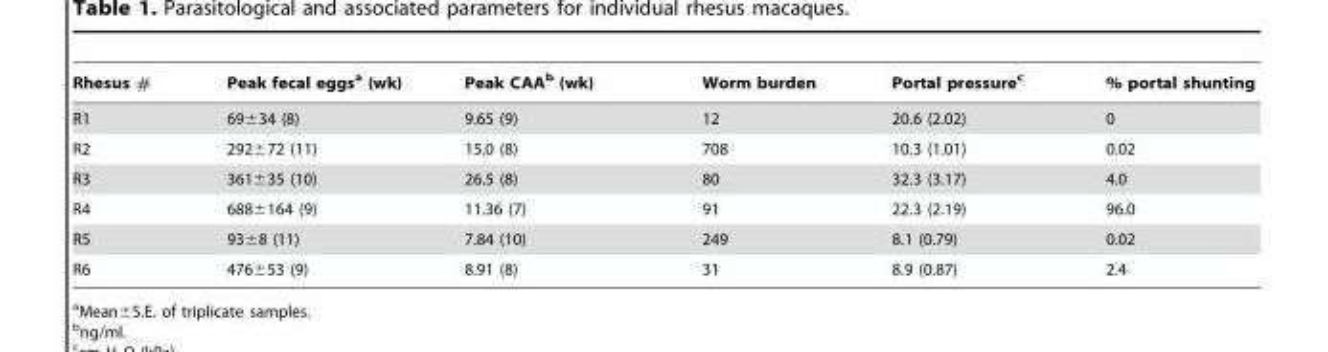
<table><thead><tr><td>Rhesus #</td><td>Peak fecal eggs<sup>a</sup> (wk)</td><td>Peak CAA<sup>b</sup> (wk)</td><td>Worm burden</td><td>Portal pressure<sup>c</sup></td><td>% portal shunting</td></tr></thead><tbody><tr><td>R1</td><td>69±34 (8)</td><td>9.65 (9)</td><td>12</td><td>20.6 (2.02)</td><td>0</td></tr><tr><td>R2</td><td>292±72 (11)</td><td>15.0 (8)</td><td>708</td><td>10.3 (1.01)</td><td>0.02</td></tr><tr><td>R3</td><td>361±35 (10)</td><td>26.5 (8)</td><td>80</td><td>32.3 (3.17)</td><td>4.0</td></tr><tr><td>R4</td><td>688±164 (9)</td><td>11.36 (7)</td><td>91</td><td>22.3 (2.19)</td><td>96.0</td></tr><tr><td>R5</td><td>93±8 (11)</td><td>7.84 (10)</td><td>249</td><td>8.1 (0.79)</td><td>0.02</td></tr><tr><td>R6</td><td>476±53 (9)</td><td>8.91 (8)</td><td>31</td><td>8.9 (0.87)</td><td>2.4</td></tr></tbody></table>